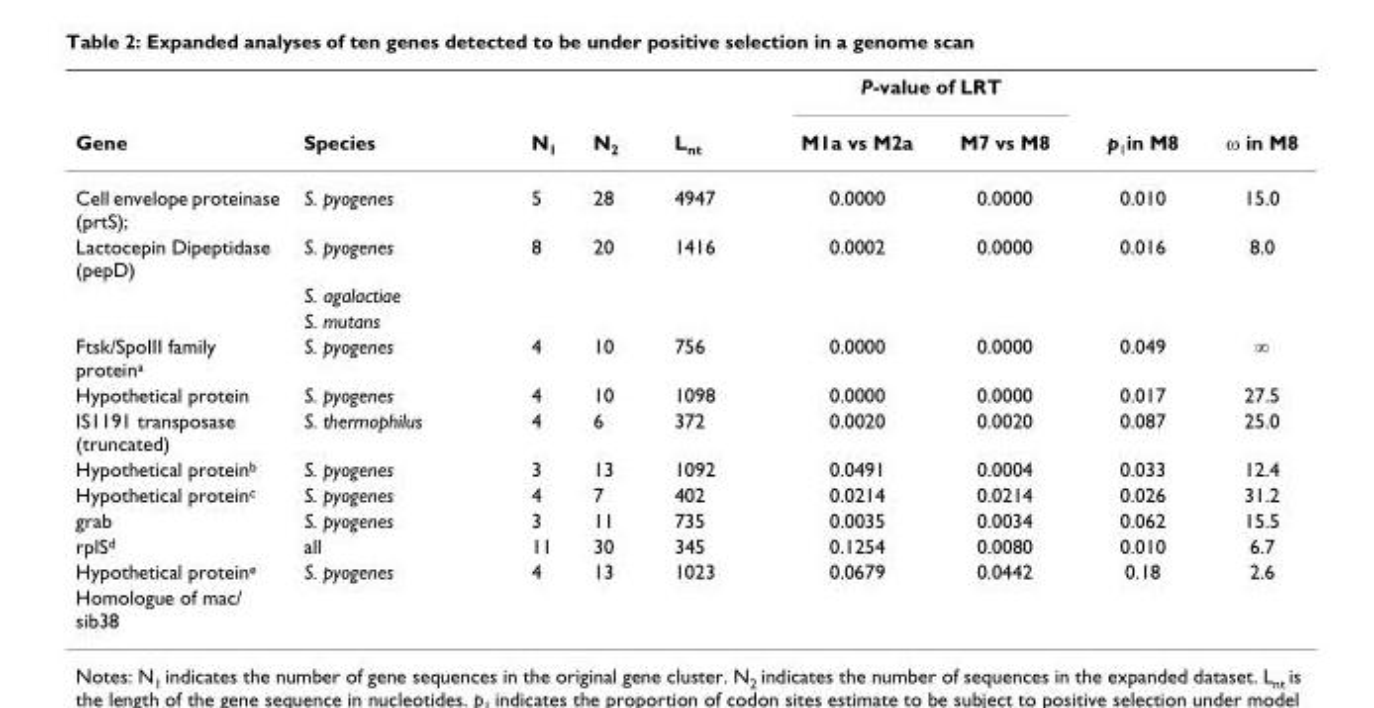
<table><thead><tr><td rowspan="2">Gene</td><td rowspan="2">Species</td><td rowspan="2">N<sub>1</sub></td><td rowspan="2">N<sub>2</sub></td><td rowspan="2">L<sub>nt</sub></td><td colspan="2">P-value of LRT</td><td rowspan="2">p<sub>1</sub>in M8</td><td rowspan="2">ω in M8</td></tr><tr><td>M1a vs M2a</td><td>M7 vs M8</td></tr></thead><tbody><tr><td>Cell envelope proteinase (prtS);</td><td>S. pyogenes</td><td>5</td><td>28</td><td>4947</td><td>0.0000</td><td>0.0000</td><td>0.010</td><td>15.0</td></tr><tr><td rowspan="3">Lactocepin Dipeptidase (pepD)</td><td>S. pyogenes</td><td>8</td><td>20</td><td>1416</td><td>0.0002</td><td>0.0000</td><td>0.016</td><td>8.0</td></tr><tr><td>S. agalactiae</td><td></td><td></td><td></td><td></td><td></td><td></td><td></td></tr><tr><td>S. mutans</td><td></td><td></td><td></td><td></td><td></td><td></td><td></td></tr><tr><td>Ftsk/SpoIII family protein<sup>a</sup></td><td>S. pyogenes</td><td>4</td><td>10</td><td>756</td><td>0.0000</td><td>0.0000</td><td>0.049</td><td>∞</td></tr><tr><td>Hypothetical protein</td><td>S. pyogenes</td><td>4</td><td>10</td><td>1098</td><td>0.0000</td><td>0.0000</td><td>0.017</td><td>27.5</td></tr><tr><td>IS1191 transposase (truncated)</td><td>S. thermophilus</td><td>4</td><td>6</td><td>372</td><td>0.0020</td><td>0.0020</td><td>0.087</td><td>25.0</td></tr><tr><td>Hypothetical protein<sup>b</sup></td><td>S. pyogenes</td><td>3</td><td>13</td><td>1092</td><td>0.0491</td><td>0.0004</td><td>0.033</td><td>12.4</td></tr><tr><td>Hypothetical protein<sup>c</sup></td><td>S. pyogenes</td><td>4</td><td>7</td><td>402</td><td>0.0214</td><td>0.0214</td><td>0.026</td><td>31.2</td></tr><tr><td>grab</td><td>S. pyogenes</td><td>3</td><td>11</td><td>735</td><td>0.0035</td><td>0.0034</td><td>0.062</td><td>15.5</td></tr><tr><td>rplS<sup>d</sup></td><td>all</td><td>11</td><td>30</td><td>345</td><td>0.1254</td><td>0.0080</td><td>0.010</td><td>6.7</td></tr><tr><td>Hypothetical protein<sup>e</sup></td><td>S. pyogenes</td><td>4</td><td>13</td><td>1023</td><td>0.0679</td><td>0.0442</td><td>0.18</td><td>2.6</td></tr><tr><td>Homologue of mac/ sib38</td><td></td><td></td><td></td><td></td><td></td><td></td><td></td><td></td></tr></tbody></table>